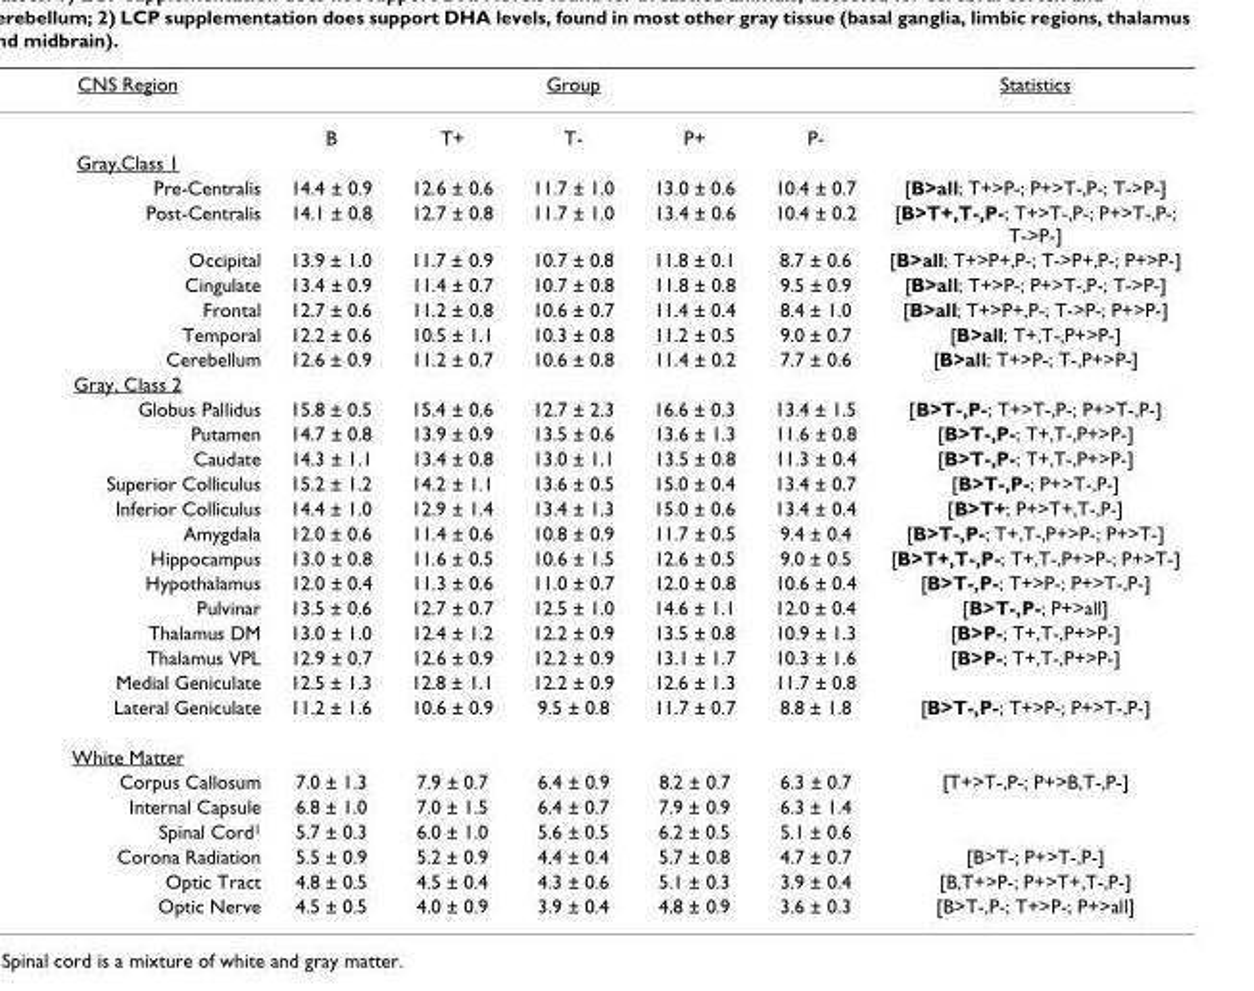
<table><thead><tr><td rowspan="2">CNS Region</td><td colspan="5">Group</td><td rowspan="2">Statistics</td></tr><tr><td>B</td><td>T+</td><td>T-</td><td>P+</td><td>P-</td></tr></thead><tbody><tr><td colspan="7">Gray,Class 1</td></tr><tr><td>Pre-Centralis</td><td>14.4 ± 0.9</td><td>12.6 ± 0.6</td><td>11.7 ± 1.0</td><td>13.0 ± 0.6</td><td>10.4 ± 0.7</td><td>[B&gt;all; T+&gt;P-; P+&gt;T-,P-; T-&gt;P-]</td></tr><tr><td>Post-Centralis</td><td>14.1 ± 0.8</td><td>12.7 ± 0.8</td><td>11.7 ± 1.0</td><td>13.4 ± 0.6</td><td>10.4 ± 0.2</td><td>[B&gt;T+,T-,P-; T+&gt;T-,P-; P+&gt;T-,P-; T-&gt;P-]</td></tr><tr><td>Occipital</td><td>13.9 ± 1.0</td><td>11.7 ± 0.9</td><td>10.7 ± 0.8</td><td>11.8 ± 0.1</td><td>8.7 ± 0.6</td><td>[B&gt;all; T+&gt;P+,P-; T-&gt;P+,P-; P+&gt;P-]</td></tr><tr><td>Cingulate</td><td>13.4 ± 0.9</td><td>11.4 ± 0.7</td><td>10.7 ± 0.8</td><td>11.8 ± 0.8</td><td>9.5 ± 0.9</td><td>[B&gt;all; T+&gt;P-; P+&gt;T-,P-; T-&gt;P-]</td></tr><tr><td>Frontal</td><td>12.7 ± 0.6</td><td>11.2 ± 0.8</td><td>10.6 ± 0.7</td><td>11.4 ± 0.4</td><td>8.4 ± 1.0</td><td>[B&gt;all; T+&gt;P+,P-; T-&gt;P-; P+&gt;P-]</td></tr><tr><td>Temporal</td><td>12.2 ± 0.6</td><td>10.5 ± 1.1</td><td>10.3 ± 0.8</td><td>11.2 ± 0.5</td><td>9.0 ± 0.7</td><td>[B&gt;all; T+,T-,P+&gt;P-]</td></tr><tr><td>Cerebellum</td><td>12.6 ± 0.9</td><td>11.2 ± 0.7</td><td>10.6 ± 0.8</td><td>11.4 ± 0.2</td><td>7.7 ± 0.6</td><td>[B&gt;all; T+&gt;P-; T-,P+&gt;P-]</td></tr><tr><td colspan="7">Gray, Class 2</td></tr><tr><td>Globus Pallidus</td><td>15.8 ± 0.5</td><td>15.4 ± 0.6</td><td>12.7 ± 2.3</td><td>16.6 ± 0.3</td><td>13.4 ± 1.5</td><td>[B&gt;T-,P-; T+&gt;T-,P-; P+&gt;T-,P-]</td></tr><tr><td>Putamen</td><td>14.7 ± 0.8</td><td>13.9 ± 0.9</td><td>13.5 ± 0.6</td><td>13.6 ± 1.3</td><td>11.6 ± 0.8</td><td>[B&gt;T-,P-; T+,T-,P+&gt;P-]</td></tr><tr><td>Caudate</td><td>14.3 ± 1.1</td><td>13.4 ± 0.8</td><td>13.0 ± 1.1</td><td>13.5 ± 0.8</td><td>11.3 ± 0.4</td><td>[B&gt;T-,P-; T+,T-,P+&gt;P-]</td></tr><tr><td>Superior Colliculus</td><td>15.2 ± 1.2</td><td>14.2 ± 1.1</td><td>13.6 ± 0.5</td><td>15.0 ± 0.4</td><td>13.4 ± 0.7</td><td>[B&gt;T-,P-; P+&gt;T-,P-]</td></tr><tr><td>Inferior Colliculus</td><td>14.4 ± 1.0</td><td>12.9 ± 1.4</td><td>13.4 ± 1.3</td><td>15.0 ± 0.6</td><td>13.4 ± 0.4</td><td>[B&gt;T+; P+&gt;T+,T-,P-]</td></tr><tr><td>Amygdala</td><td>12.0 ± 0.6</td><td>11.4 ± 0.6</td><td>10.8 ± 0.9</td><td>11.7 ± 0.5</td><td>9.4 ± 0.4</td><td>[B&gt;T-,P-; T+,T-,P+&gt;P-; P+&gt;T-]</td></tr><tr><td>Hippocampus</td><td>13.0 ± 0.8</td><td>11.6 ± 0.5</td><td>10.6 ± 1.5</td><td>12.6 ± 0.5</td><td>9.0 ± 0.5</td><td>[B&gt;T+,T-,P-; T+,T-,P+&gt;P-; P+&gt;T-]</td></tr><tr><td>Hypothalamus</td><td>12.0 ± 0.4</td><td>11.3 ± 0.6</td><td>11.0 ± 0.7</td><td>12.0 ± 0.8</td><td>10.6 ± 0.4</td><td>[B&gt;T-,P-; T+&gt;P-; P+&gt;T-,P-]</td></tr><tr><td>Pulvinar</td><td>13.5 ± 0.6</td><td>12.7 ± 0.7</td><td>12.5 ± 1.0</td><td>14.6 ± 1.1</td><td>12.0 ± 0.4</td><td>[B&gt;T-,P-; P+&gt;all]</td></tr><tr><td>Thalamus DM</td><td>13.0 ± 1.0</td><td>12.4 ± 1.2</td><td>12.2 ± 0.9</td><td>13.5 ± 0.8</td><td>10.9 ± 1.3</td><td>[B&gt;P-; T+,T-,P+&gt;P-]</td></tr><tr><td>Thalamus VPL</td><td>12.9 ± 0.7</td><td>12.6 ± 0.9</td><td>12.2 ± 0.9</td><td>13.1 ± 1.7</td><td>10.3 ± 1.6</td><td>[B&gt;P-; T+,T-,P+&gt;P-]</td></tr><tr><td>Medial Geniculate</td><td>12.5 ± 1.3</td><td>12.8 ± 1.1</td><td>12.2 ± 0.9</td><td>12.6 ± 1.3</td><td>11.7 ± 0.8</td><td></td></tr><tr><td>Lateral Geniculate</td><td>11.2 ± 1.6</td><td>10.6 ± 0.9</td><td>9.5 ± 0.8</td><td>11.7 ± 0.7</td><td>8.8 ± 1.8</td><td>[B&gt;T-,P-; T+&gt;P-; P+&gt;T-,P-]</td></tr><tr><td colspan="7">White Matter</td></tr><tr><td>Corpus Callosum</td><td>7.0 ± 1.3</td><td>7.9 ± 0.7</td><td>6.4 ± 0.9</td><td>8.2 ± 0.7</td><td>6.3 ± 0.7</td><td>[T+&gt;T-,P-; P+&gt;B,T-,P-]</td></tr><tr><td>Internal Capsule</td><td>6.8 ± 1.0</td><td>7.0 ± 1.5</td><td>6.4 ± 0.7</td><td>7.9 ± 0.9</td><td>6.3 ± 1.4</td><td></td></tr><tr><td>Spinal Cord<sup>1</sup></td><td>5.7 ± 0.3</td><td>6.0 ± 1.0</td><td>5.6 ± 0.5</td><td>6.2 ± 0.5</td><td>5.1 ± 0.6</td><td></td></tr><tr><td>Corona Radiation</td><td>5.5 ± 0.9</td><td>5.2 ± 0.9</td><td>4.4 ± 0.4</td><td>5.7 ± 0.8</td><td>4.7 ± 0.7</td><td>[B&gt;T-; P+&gt;T-,P-]</td></tr><tr><td>Optic Tract</td><td>4.8 ± 0.5</td><td>4.5 ± 0.4</td><td>4.3 ± 0.6</td><td>5.1 ± 0.3</td><td>3.9 ± 0.4</td><td>[B,T+&gt;P-; P+&gt;T+,T-,P-]</td></tr><tr><td>Optic Nerve</td><td>4.5 ± 0.5</td><td>4.0 ± 0.9</td><td>3.9 ± 0.4</td><td>4.8 ± 0.9</td><td>3.6 ± 0.3</td><td>[B&gt;T-,P-; T+&gt;P-; P+&gt;all]</td></tr></tbody></table>